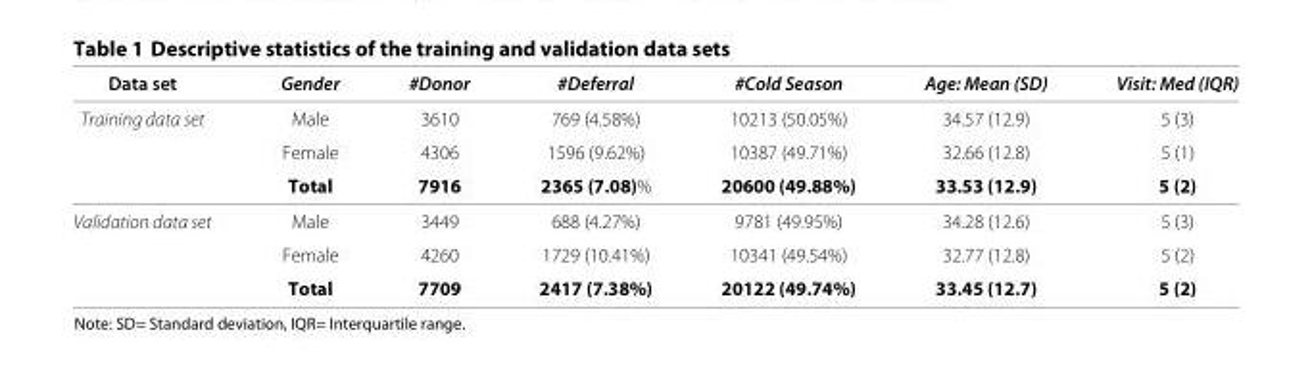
<table><thead><tr><td>Data set</td><td>Gender</td><td>#Donor</td><td>#Deferral</td><td>#Cold Season</td><td>Age: Mean (SD)</td><td>Visit: Med (IQR)</td></tr></thead><tbody><tr><td rowspan="3">Training data set</td><td>Male</td><td>3610</td><td>769 (4.58%)</td><td>10213 (50.05%)</td><td>34.57 (12.9)</td><td>5 (3)</td></tr><tr><td>Female</td><td>4306</td><td>1596 (9.62%)</td><td>10387 (49.71%)</td><td>32.66 (12.8)</td><td>5 (1)</td></tr><tr><td>Total</td><td>7916</td><td>2365 (7.08)%</td><td>20600 (49.88%)</td><td>33.53 (12.9)</td><td>5 (2)</td></tr><tr><td rowspan="3">Validation data set</td><td>Male</td><td>3449</td><td>688 (4.27%)</td><td>9781 (49.95%)</td><td>34.28 (12.6)</td><td>5 (3)</td></tr><tr><td>Female</td><td>4260</td><td>1729 (10.41%)</td><td>10341 (49.54%)</td><td>32.77 (12.8)</td><td>5 (2)</td></tr><tr><td>Total</td><td>7709</td><td>2417 (7.38%)</td><td>20122 (49.74%)</td><td>33.45 (12.7)</td><td>5 (2)</td></tr></tbody></table>